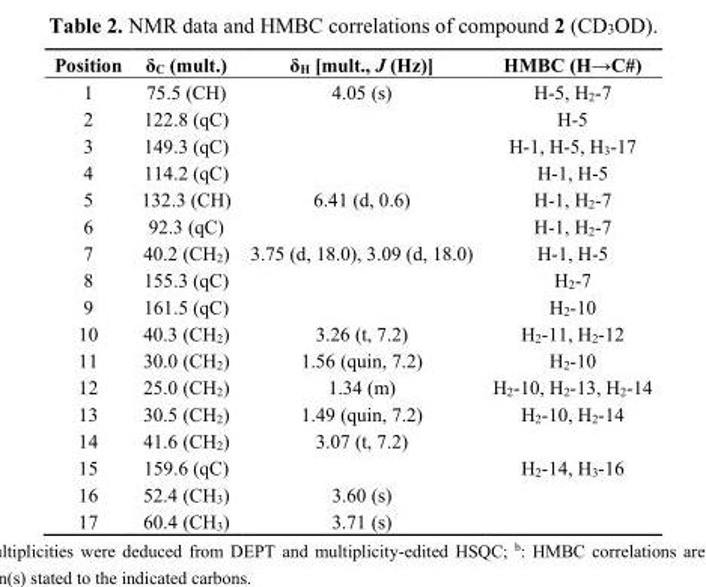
<table><thead><tr><td>Position</td><td>δ<sub>C</sub> (mult.)</td><td>δ<sub>H</sub> [mult., J (Hz)]</td><td>HMBC (H→C#)</td></tr></thead><tbody><tr><td>1</td><td>75.5 (CH)</td><td>4.05 (s)</td><td>H-5, H<sub>2</sub>-7</td></tr><tr><td>2</td><td>122.8 (qC)</td><td></td><td>H-5</td></tr><tr><td>3</td><td>149.3 (qC)</td><td></td><td>H-1, H-5, H<sub>3</sub>-17</td></tr><tr><td>4</td><td>114.2 (qC)</td><td></td><td>H-1, H-5</td></tr><tr><td>5</td><td>132.3 (CH)</td><td>6.41 (d, 0.6)</td><td>H-1, H<sub>2</sub>-7</td></tr><tr><td>6</td><td>92.3 (qC)</td><td></td><td>H-1, H<sub>2</sub>-7</td></tr><tr><td>7</td><td>40.2 (CH<sub>2</sub>)</td><td>3.75 (d, 18.0), 3.09 (d, 18.0)</td><td>H-1, H-5</td></tr><tr><td>8</td><td>155.3 (qC)</td><td></td><td>H<sub>2</sub>-7</td></tr><tr><td>9</td><td>161.5 (qC)</td><td></td><td>H<sub>2</sub>-10</td></tr><tr><td>10</td><td>40.3 (CH<sub>2</sub>)</td><td>3.26 (t, 7.2)</td><td>H<sub>2</sub>-11, H<sub>2</sub>-12</td></tr><tr><td>11</td><td>30.0 (CH<sub>2</sub>)</td><td>1.56 (quin, 7.2)</td><td>H<sub>2</sub>-10</td></tr><tr><td>12</td><td>25.0 (CH<sub>2</sub>)</td><td>1.34 (m)</td><td>H<sub>2</sub>-10, H<sub>2</sub>-13, H<sub>2</sub>-14</td></tr><tr><td>13</td><td>30.5 (CH<sub>2</sub>)</td><td>1.49 (quin, 7.2)</td><td>H<sub>2</sub>-10, H<sub>2</sub>-14</td></tr><tr><td>14</td><td>41.6 (CH<sub>2</sub>)</td><td>3.07 (t, 7.2)</td><td></td></tr><tr><td>15</td><td>159.6 (qC)</td><td></td><td>H<sub>2</sub>-14, H<sub>3</sub>-16</td></tr><tr><td>16</td><td>52.4 (CH<sub>3</sub>)</td><td>3.60 (s)</td><td></td></tr><tr><td>17</td><td>60.4 (CH<sub>3</sub>)</td><td>3.71 (s)</td><td></td></tr></tbody></table>